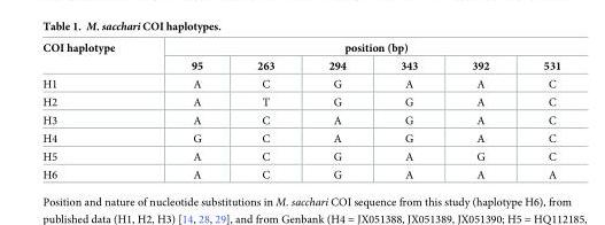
<table><thead><tr><td rowspan="2">COI haplotype</td><td colspan="6">position (bp)</td></tr><tr><td>95</td><td>263</td><td>294</td><td>343</td><td>392</td><td>531</td></tr></thead><tbody><tr><td>H1</td><td>A</td><td>C</td><td>G</td><td>A</td><td>A</td><td>C</td></tr><tr><td>H2</td><td>A</td><td>T</td><td>G</td><td>G</td><td>A</td><td>C</td></tr><tr><td>H3</td><td>A</td><td>C</td><td>A</td><td>G</td><td>A</td><td>C</td></tr><tr><td>H4</td><td>G</td><td>C</td><td>A</td><td>G</td><td>A</td><td>C</td></tr><tr><td>H5</td><td>A</td><td>C</td><td>G</td><td>A</td><td>G</td><td>C</td></tr><tr><td>H6</td><td>A</td><td>C</td><td>G</td><td>A</td><td>A</td><td>A</td></tr></tbody></table>